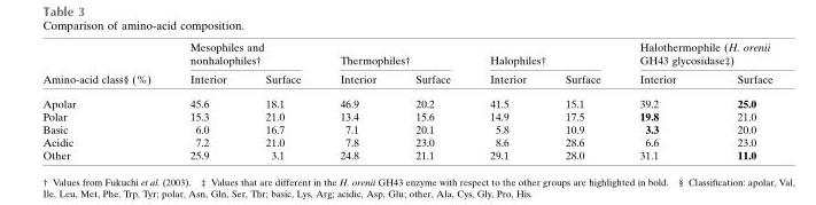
<table><thead><tr><td rowspan="2">Amino-acid class§ (%)</td><td colspan="2">Mesophiles and nonhalophiles†</td><td colspan="2">Thermophiles†</td><td colspan="2">Halophiles†</td><td colspan="2">Halothermophile (H. orenii GH43 glycosidase‡)</td></tr><tr><td>Interior</td><td>Surface</td><td>Interior</td><td>Surface</td><td>Interior</td><td>Surface</td><td>Interior</td><td>Surface</td></tr></thead><tbody><tr><td>Apolar</td><td>45.6</td><td>18.1</td><td>46.9</td><td>20.2</td><td>41.5</td><td>15.1</td><td>39.2</td><td>25.0</td></tr><tr><td>Polar</td><td>15.3</td><td>21.0</td><td>13.4</td><td>15.6</td><td>14.9</td><td>17.5</td><td>19.8</td><td>21.0</td></tr><tr><td>Basic</td><td>6.0</td><td>16.7</td><td>7.1</td><td>20.1</td><td>5.8</td><td>10.9</td><td>3.3</td><td>20.0</td></tr><tr><td>Acidic</td><td>7.2</td><td>21.0</td><td>7.8</td><td>23.0</td><td>8.6</td><td>28.6</td><td>6.6</td><td>23.0</td></tr><tr><td>Other</td><td>25.9</td><td>3.1</td><td>24.8</td><td>21.1</td><td>29.1</td><td>28.0</td><td>31.1</td><td>11.0</td></tr></tbody></table>